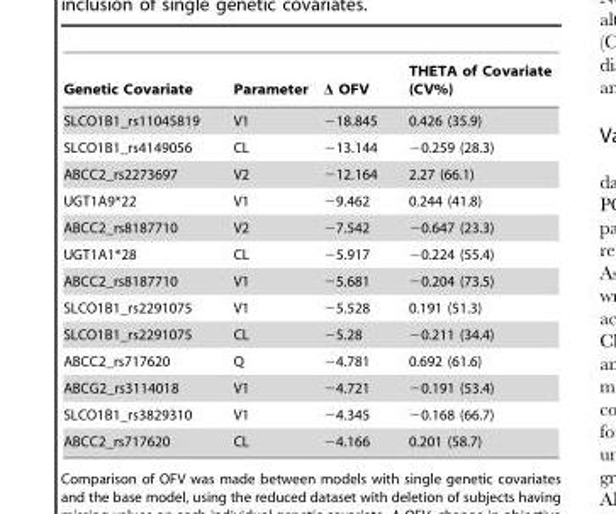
<table><thead><tr><td>Genetic Covariate</td><td>Parameter</td><td>Δ OFV</td><td>THETA of Covariate (CV%)</td></tr></thead><tbody><tr><td>SLCO1B1_rs11045819</td><td>V1</td><td>−18.845</td><td>0.426 (35.9)</td></tr><tr><td>SLCO1B1_rs4149056</td><td>CL</td><td>−13.144</td><td>−0.259 (28.3)</td></tr><tr><td>ABCC2_rs2273697</td><td>V2</td><td>−12.164</td><td>2.27 (66.1)</td></tr><tr><td>UGT1A9*22</td><td>V1</td><td>−9.462</td><td>0.244 (41.8)</td></tr><tr><td>ABCC2_rs8187710</td><td>V2</td><td>−7.542</td><td>−0.647 (23.3)</td></tr><tr><td>UGT1A1*28</td><td>CL</td><td>−5.917</td><td>−0.224 (55.4)</td></tr><tr><td>ABCC2_rs8187710</td><td>V1</td><td>−5.681</td><td>−0.204 (73.5)</td></tr><tr><td>SLCO1B1_rs2291075</td><td>V1</td><td>−5.528</td><td>0.191 (51.3)</td></tr><tr><td>SLCO1B1_rs2291075</td><td>CL</td><td>−5.28</td><td>−0.211 (34.4)</td></tr><tr><td>ABCC2_rs717620</td><td>Q</td><td>−4.781</td><td>0.692 (61.6)</td></tr><tr><td>ABCG2_rs3114018</td><td>V1</td><td>−4.721</td><td>−0.191 (53.4)</td></tr><tr><td>SLCO1B1_rs3829310</td><td>V1</td><td>−4.345</td><td>−0.168 (66.7)</td></tr><tr><td>ABCC2_rs717620</td><td>CL</td><td>−4.166</td><td>0.201 (58.7)</td></tr></tbody></table>